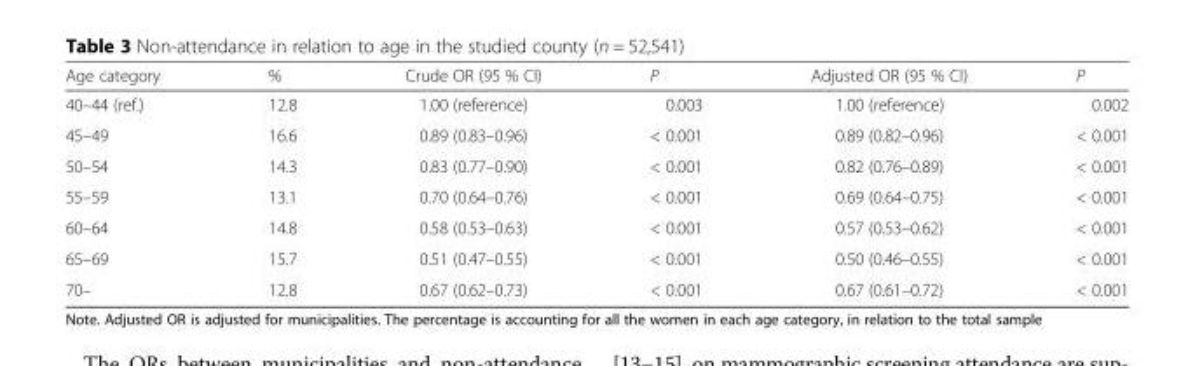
<table><thead><tr><td>Age category</td><td>%</td><td>Crude OR (95 % CI)</td><td>P</td><td>Adjusted OR (95 % CI)</td><td>P</td></tr></thead><tbody><tr><td>40–44 (ref.)</td><td>12.8</td><td>1.00 (reference)</td><td>0.003</td><td>1.00 (reference)</td><td>0.002</td></tr><tr><td>45–49</td><td>16.6</td><td>0.89 (0.83–0.96)</td><td>&lt; 0.001</td><td>0.89 (0.82–0.96)</td><td>&lt; 0.001</td></tr><tr><td>50–54</td><td>14.3</td><td>0.83 (0.77–0.90)</td><td>&lt; 0.001</td><td>0.82 (0.76–0.89)</td><td>&lt; 0.001</td></tr><tr><td>55–59</td><td>13.1</td><td>0.70 (0.64–0.76)</td><td>&lt; 0.001</td><td>0.69 (0.64–0.75)</td><td>&lt; 0.001</td></tr><tr><td>60–64</td><td>14.8</td><td>0.58 (0.53–0.63)</td><td>&lt; 0.001</td><td>0.57 (0.53–0.62)</td><td>&lt; 0.001</td></tr><tr><td>65–69</td><td>15.7</td><td>0.51 (0.47–0.55)</td><td>&lt; 0.001</td><td>0.50 (0.46–0.55)</td><td>&lt; 0.001</td></tr><tr><td>70–</td><td>12.8</td><td>0.67 (0.62–0.73)</td><td>&lt; 0.001</td><td>0.67 (0.61–0.72)</td><td>&lt; 0.001</td></tr></tbody></table>